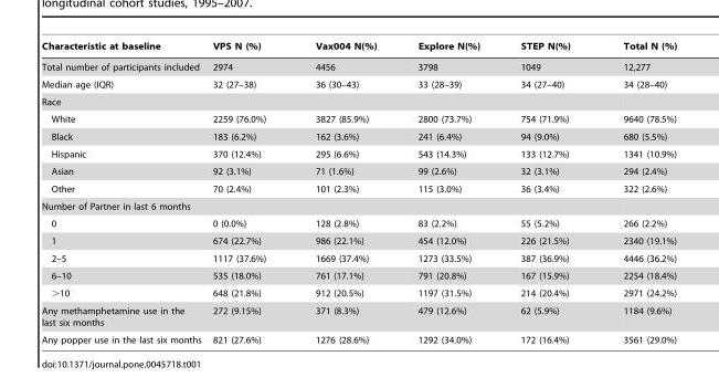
<table><thead><tr><td>Characteristic at baseline</td><td>VPS N (%)</td><td>Vax004 N(%)</td><td>Explore N(%)</td><td>STEP N(%)</td><td>Total N (%)</td></tr></thead><tbody><tr><td>Total number of participants included</td><td>2974</td><td>4456</td><td>3798</td><td>1049</td><td>12,277</td></tr><tr><td>Median age (IQR)</td><td>32 (27–38)</td><td>36 (30–43)</td><td>33 (28–39)</td><td>34 (27–40)</td><td>34 (28–40)</td></tr><tr><td colspan="6">Race</td></tr><tr><td>White</td><td>2259 (76.0%)</td><td>3827 (85.9%)</td><td>2800 (73.7%)</td><td>754 (71.9%)</td><td>9640 (78.5%)</td></tr><tr><td>Black</td><td>183 (6.2%)</td><td>162 (3.6%)</td><td>241 (6.4%)</td><td>94 (9.0%)</td><td>680 (5.5%)</td></tr><tr><td>Hispanic</td><td>370 (12.4%)</td><td>295 (6.6%)</td><td>543 (14.3%)</td><td>133 (12.7%)</td><td>1341 (10.9%)</td></tr><tr><td>Asian</td><td>92 (3.1%)</td><td>71 (1.6%)</td><td>99 (2.6%)</td><td>32 (3.1%)</td><td>294 (2.4%)</td></tr><tr><td>Other</td><td>70 (2.4%)</td><td>101 (2.3%)</td><td>115 (3.0%)</td><td>36 (3.4%)</td><td>322 (2.6%)</td></tr><tr><td colspan="6">Number of Partner in last 6 months</td></tr><tr><td>0</td><td>0 (0.0%)</td><td>128 (2.8%)</td><td>83 (2.2%)</td><td>55 (5.2%)</td><td>266 (2.2%)</td></tr><tr><td>1</td><td>674 (22.7%)</td><td>986 (22.1%)</td><td>454 (12.0%)</td><td>226 (21.5%)</td><td>2340 (19.1%)</td></tr><tr><td>2–5</td><td>1117 (37.6%)</td><td>1669 (37.4%)</td><td>1273 (33.5%)</td><td>387 (36.9%)</td><td>4446 (36.2%)</td></tr><tr><td>6–10</td><td>535 (18.0%)</td><td>761 (17.1%)</td><td>791 (20.8%)</td><td>167 (15.9%)</td><td>2254 (18.4%)</td></tr><tr><td>&gt;10</td><td>648 (21.8%)</td><td>912 (20.5%)</td><td>1197 (31.5%)</td><td>214 (20.4%)</td><td>2971 (24.2%)</td></tr><tr><td>Any methamphetamine use in the last six months</td><td>272 (9.15%)</td><td>371 (8.3%)</td><td>479 (12.6%)</td><td>62 (5.9%)</td><td>1184 (9.6%)</td></tr><tr><td>Any popper use in the last six months</td><td>821 (27.6%)</td><td>1276 (28.6%)</td><td>1292 (34.0%)</td><td>172 (16.4%)</td><td>3561 (29.0%)</td></tr></tbody></table>